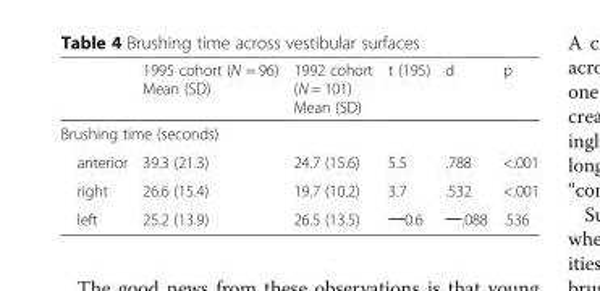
<table><thead><tr><td></td><td>1995 cohort (N = 96) Mean (SD)</td><td>1992 cohort (N = 101) Mean (SD)</td><td>t (195)</td><td>d</td><td>p</td></tr></thead><tbody><tr><td colspan="6">Brushing time (seconds)</td></tr><tr><td>anterior</td><td>39.3 (21.3)</td><td>24.7 (15.6)</td><td>5.5</td><td>.788</td><td>&lt;.001</td></tr><tr><td>right</td><td>26.6 (15.4)</td><td>19.7 (10.2)</td><td>3.7</td><td>.532</td><td>&lt;.001</td></tr><tr><td>left</td><td>25.2 (13.9)</td><td>26.5 (13.5)</td><td>─0.6</td><td>─.088</td><td>.536</td></tr></tbody></table>